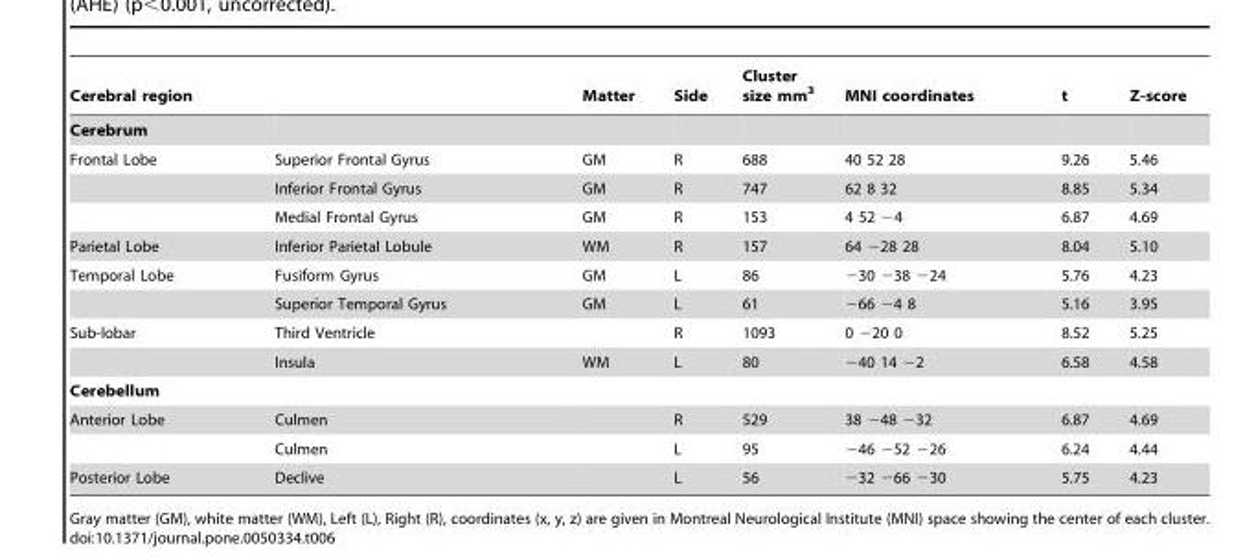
<table><thead><tr><td>Cerebral region</td><td></td><td>Matter</td><td>Side</td><td>Cluster size mm<sup>3</sup></td><td>MNI coordinates</td><td>t</td><td>Z-score</td></tr></thead><tbody><tr><td colspan="8">Cerebrum</td></tr><tr><td rowspan="3">Frontal Lobe</td><td>Superior Frontal Gyrus</td><td>GM</td><td>R</td><td>688</td><td>40 52 28</td><td>9.26</td><td>5.46</td></tr><tr><td>Inferior Frontal Gyrus</td><td>GM</td><td>R</td><td>747</td><td>62 8 32</td><td>8.85</td><td>5.34</td></tr><tr><td>Medial Frontal Gyrus</td><td>GM</td><td>R</td><td>153</td><td>4 52 −4</td><td>6.87</td><td>4.69</td></tr><tr><td>Parietal Lobe</td><td>Inferior Parietal Lobule</td><td>WM</td><td>R</td><td>157</td><td>64 −28 28</td><td>8.04</td><td>5.10</td></tr><tr><td rowspan="2">Temporal Lobe</td><td>Fusiform Gyrus</td><td>GM</td><td>L</td><td>86</td><td>−30 −38 −24</td><td>5.76</td><td>4.23</td></tr><tr><td>Superior Temporal Gyrus</td><td>GM</td><td>L</td><td>61</td><td>−66 −4 8</td><td>5.16</td><td>3.95</td></tr><tr><td rowspan="2">Sub-lobar</td><td>Third Ventricle</td><td></td><td>R</td><td>1093</td><td>0 −20 0</td><td>8.52</td><td>5.25</td></tr><tr><td>Insula</td><td>WM</td><td>L</td><td>80</td><td>−40 14 −2</td><td>6.58</td><td>4.58</td></tr><tr><td colspan="8">Cerebellum</td></tr><tr><td rowspan="2">Anterior Lobe</td><td>Culmen</td><td></td><td>R</td><td>529</td><td>38 −48 −32</td><td>6.87</td><td>4.69</td></tr><tr><td>Culmen</td><td></td><td>L</td><td>95</td><td>−46 −52 −26</td><td>6.24</td><td>4.44</td></tr><tr><td>Posterior Lobe</td><td>Declive</td><td></td><td>L</td><td>56</td><td>−32 −66 −30</td><td>5.75</td><td>4.23</td></tr></tbody></table>